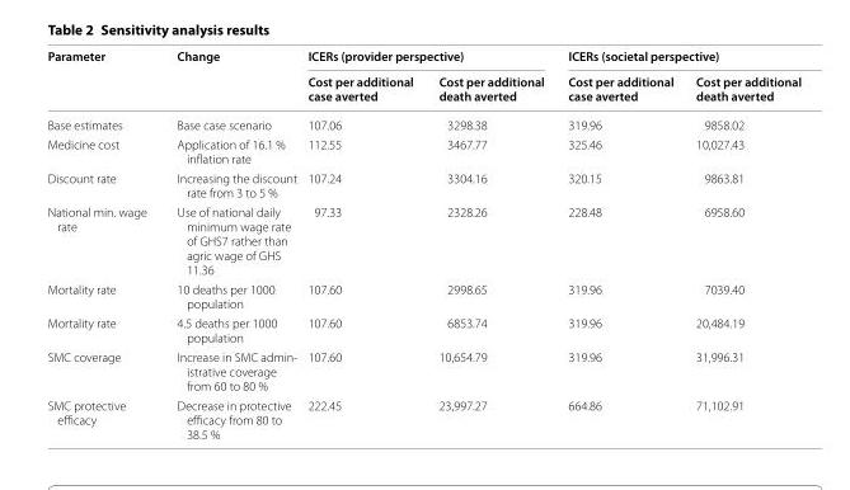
<table><thead><tr><td rowspan="2">Parameter</td><td rowspan="2">Change</td><td colspan="2">ICERs (provider perspective)</td><td colspan="2">ICERs (societal perspective)</td></tr><tr><td>Cost per additional case averted</td><td>Cost per additional death averted</td><td>Cost per additional case averted</td><td>Cost per additional death averted</td></tr></thead><tbody><tr><td>Base estimates</td><td>Base case scenario</td><td>107.06</td><td>3298.38</td><td>319.96</td><td>9858.02</td></tr><tr><td>Medicine cost</td><td>Application of 16.1 % inflation rate</td><td>112.55</td><td>3467.77</td><td>325.46</td><td>10,027.43</td></tr><tr><td>Discount rate</td><td>Increasing the discount rate from 3 to 5 %</td><td>107.24</td><td>3304.16</td><td>320.15</td><td>9863.81</td></tr><tr><td>National min. wage rate</td><td>Use of national daily minimum wage rate of GHS7 rather than agric wage of GHS 11.36</td><td>97.33</td><td>2328.26</td><td>228.48</td><td>6958.60</td></tr><tr><td>Mortality rate</td><td>10 deaths per 1000 population</td><td>107.60</td><td>2998.65</td><td>319.96</td><td>7039.40</td></tr><tr><td>Mortality rate</td><td>4.5 deaths per 1000 population</td><td>107.60</td><td>6853.74</td><td>319.96</td><td>20,484.19</td></tr><tr><td>SMC coverage</td><td>Increase in SMC admin- istrative coverage from 60 to 80 %</td><td>107.60</td><td>10,654.79</td><td>319.96</td><td>31,996.31</td></tr><tr><td>SMC protective efficacy</td><td>Decrease in protective efficacy from 80 to 38.5 %</td><td>222.45</td><td>23,997.27</td><td>664.86</td><td>71,102.91</td></tr></tbody></table>